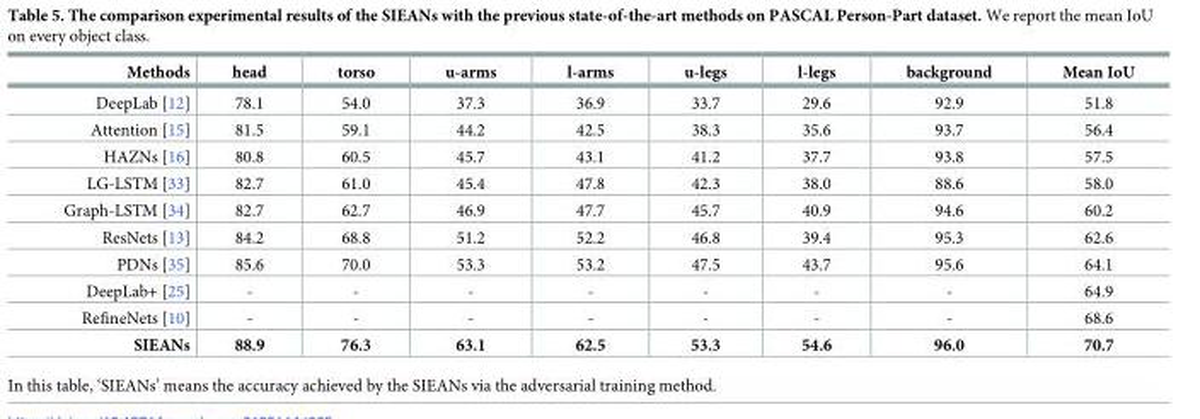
<table><thead><tr><td>Methods</td><td>head</td><td>torso</td><td>u-arms</td><td>l-arms</td><td>u-legs</td><td>l-legs</td><td>background</td><td>Mean IoU</td></tr></thead><tbody><tr><td>DeepLab [12]</td><td>78.1</td><td>54.0</td><td>37.3</td><td>36.9</td><td>33.7</td><td>29.6</td><td>92.9</td><td>51.8</td></tr><tr><td>Attention [15]</td><td>81.5</td><td>59.1</td><td>44.2</td><td>42.5</td><td>38.3</td><td>35.6</td><td>93.7</td><td>56.4</td></tr><tr><td>HAZNs [16]</td><td>80.8</td><td>60.5</td><td>45.7</td><td>43.1</td><td>41.2</td><td>37.7</td><td>93.8</td><td>57.5</td></tr><tr><td>LG-LSTM [33]</td><td>82.7</td><td>61.0</td><td>45.4</td><td>47.8</td><td>42.3</td><td>38.0</td><td>88.6</td><td>58.0</td></tr><tr><td>Graph-LSTM [34]</td><td>82.7</td><td>62.7</td><td>46.9</td><td>47.7</td><td>45.7</td><td>40.9</td><td>94.6</td><td>60.2</td></tr><tr><td>ResNets [13]</td><td>84.2</td><td>68.8</td><td>51.2</td><td>52.2</td><td>46.8</td><td>39.4</td><td>95.3</td><td>62.6</td></tr><tr><td>PDNs [35]</td><td>85.6</td><td>70.0</td><td>53.3</td><td>53.2</td><td>47.5</td><td>43.7</td><td>95.6</td><td>64.1</td></tr><tr><td>DeepLab+ [25]</td><td>-</td><td>-</td><td>-</td><td>-</td><td>-</td><td>-</td><td>-</td><td>64.9</td></tr><tr><td>RefineNets [10]</td><td>-</td><td>-</td><td>-</td><td>-</td><td>-</td><td>-</td><td>-</td><td>68.6</td></tr><tr><td>SIEANs</td><td>88.9</td><td>76.3</td><td>63.1</td><td>62.5</td><td>53.3</td><td>54.6</td><td>96.0</td><td>70.7</td></tr></tbody></table>